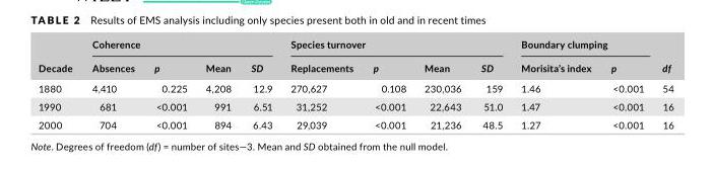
<table><thead><tr><td rowspan="2">Decade</td><td colspan="4">Coherence</td><td colspan="4">Species turnover</td><td colspan="3">Boundary clumping</td></tr><tr><td>Absences</td><td>p</td><td>Mean</td><td>SD</td><td>Replacements</td><td>p</td><td>Mean</td><td>SD</td><td>Morisita’s index</td><td>p</td><td>df</td></tr></thead><tbody><tr><td>1880</td><td>4,410</td><td>0.225</td><td>4,208</td><td>12.9</td><td>270,627</td><td>0.108</td><td>230,036</td><td>159</td><td>1.46</td><td>&lt;0.001</td><td>54</td></tr><tr><td>1990</td><td>681</td><td>&lt;0.001</td><td>991</td><td>6.51</td><td>31,252</td><td>&lt;0.001</td><td>22,643</td><td>51.0</td><td>1.47</td><td>&lt;0.001</td><td>16</td></tr><tr><td>2000</td><td>704</td><td>&lt;0.001</td><td>894</td><td>6.43</td><td>29,039</td><td>&lt;0.001</td><td>21,236</td><td>48.5</td><td>1.27</td><td>&lt;0.001</td><td>16</td></tr></tbody></table>